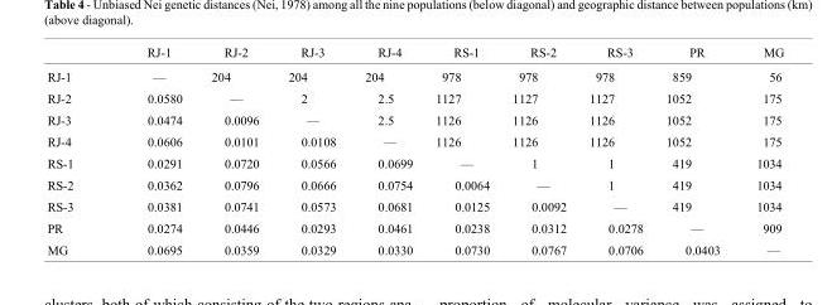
<table><thead><tr><td></td><td>RJ-1</td><td>RJ-2</td><td>RJ-3</td><td>RJ-4</td><td>RS-1</td><td>RS-2</td><td>RS-3</td><td>PR</td><td>MG</td></tr></thead><tbody><tr><td>RJ-1</td><td>—</td><td>204</td><td>204</td><td>204</td><td>978</td><td>978</td><td>978</td><td>859</td><td>56</td></tr><tr><td>RJ-2</td><td>0.0580</td><td>—</td><td>2</td><td>2.5</td><td>1127</td><td>1127</td><td>1127</td><td>1052</td><td>175</td></tr><tr><td>RJ-3</td><td>0.0474</td><td>0.0096</td><td>—</td><td>2.5</td><td>1126</td><td>1126</td><td>1126</td><td>1052</td><td>175</td></tr><tr><td>RJ-4</td><td>0.0606</td><td>0.0101</td><td>0.0108</td><td>—</td><td>1126</td><td>1126</td><td>1126</td><td>1052</td><td>175</td></tr><tr><td>RS-1</td><td>0.0291</td><td>0.0720</td><td>0.0566</td><td>0.0699</td><td>—</td><td>1</td><td>1</td><td>419</td><td>1034</td></tr><tr><td>RS-2</td><td>0.0362</td><td>0.0796</td><td>0.0666</td><td>0.0754</td><td>0.0064</td><td>—</td><td>1</td><td>419</td><td>1034</td></tr><tr><td>RS-3</td><td>0.0381</td><td>0.0741</td><td>0.0573</td><td>0.0681</td><td>0.0125</td><td>0.0092</td><td>—</td><td>419</td><td>1034</td></tr><tr><td>PR</td><td>0.0274</td><td>0.0446</td><td>0.0293</td><td>0.0461</td><td>0.0238</td><td>0.0312</td><td>0.0278</td><td>—</td><td>909</td></tr><tr><td>MG</td><td>0.0695</td><td>0.0359</td><td>0.0329</td><td>0.0330</td><td>0.0730</td><td>0.0767</td><td>0.0706</td><td>0.0403</td><td>—</td></tr></tbody></table>